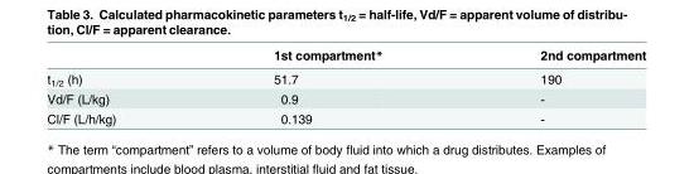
<table><thead><tr><td></td><td>1st compartment*</td><td>2nd compartment</td></tr></thead><tbody><tr><td>t<sub>1/2</sub> (h)</td><td>51.7</td><td>190</td></tr><tr><td>Vd/F (L/kg)</td><td>0.9</td><td>-</td></tr><tr><td>Cl/F (L/h/kg)</td><td>0.139</td><td>-</td></tr></tbody></table>